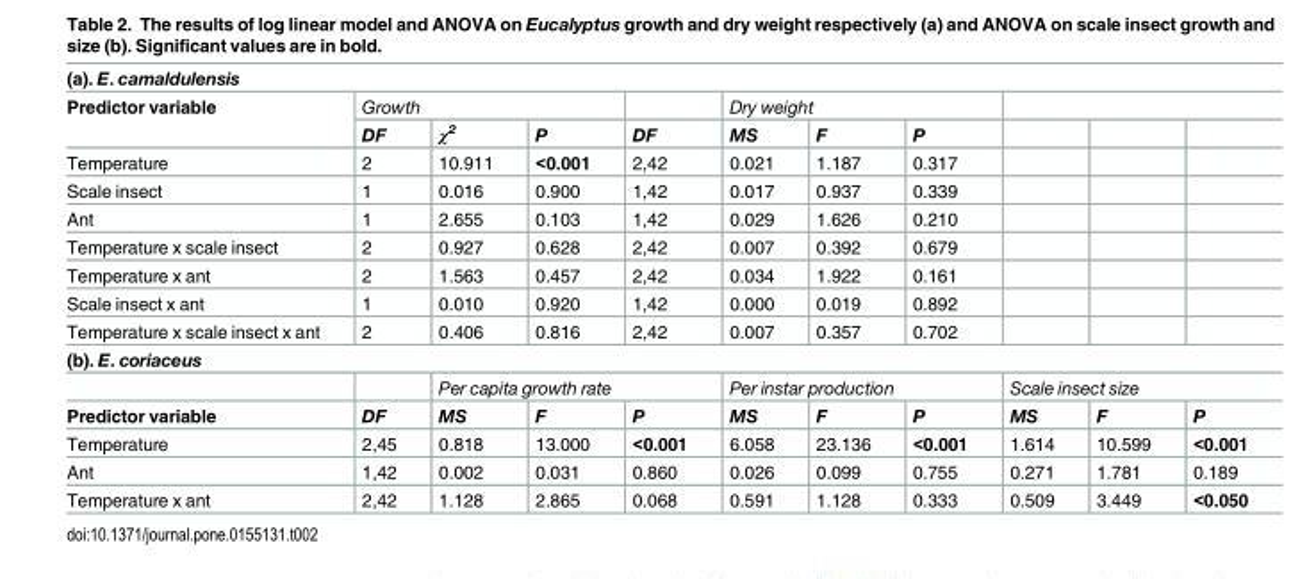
<table><tbody><tr><td colspan="11">(a). E. camaldulensis</td></tr><tr><td rowspan="2">Predictor variable</td><td colspan="3">Growth</td><td></td><td colspan="3">Dry weight</td><td colspan="3"></td></tr><tr><td>DF</td><td>χ<sup>2</sup></td><td>P</td><td>DF</td><td>MS</td><td>F</td><td>P</td><td></td><td></td><td></td></tr><tr><td>Temperature</td><td>2</td><td>10.911</td><td>&lt;0.001</td><td>2,42</td><td>0.021</td><td>1.187</td><td>0.317</td><td></td><td></td><td></td></tr><tr><td>Scale insect</td><td>1</td><td>0.016</td><td>0.900</td><td>1,42</td><td>0.017</td><td>0.937</td><td>0.339</td><td></td><td></td><td></td></tr><tr><td>Ant</td><td>1</td><td>2.655</td><td>0.103</td><td>1,42</td><td>0.029</td><td>1.626</td><td>0.210</td><td></td><td></td><td></td></tr><tr><td>Temperature x scale insect</td><td>2</td><td>0.927</td><td>0.628</td><td>2,42</td><td>0.007</td><td>0.392</td><td>0.679</td><td></td><td></td><td></td></tr><tr><td>Temperature x ant</td><td>2</td><td>1.563</td><td>0.457</td><td>2,42</td><td>0.034</td><td>1.922</td><td>0.161</td><td></td><td></td><td></td></tr><tr><td>Scale insect x ant</td><td>1</td><td>0.010</td><td>0.920</td><td>1,42</td><td>0.000</td><td>0.019</td><td>0.892</td><td></td><td></td><td></td></tr><tr><td>Temperature x scale insect x ant</td><td>2</td><td>0.406</td><td>0.816</td><td>2,42</td><td>0.007</td><td>0.357</td><td>0.702</td><td></td><td></td><td></td></tr><tr><td colspan="11">(b). E. coriaceus</td></tr><tr><td></td><td></td><td colspan="3">Per capita growth rate</td><td colspan="3">Per instar production</td><td colspan="3">Scale insect size</td></tr><tr><td>Predictor variable</td><td>DF</td><td>MS</td><td>F</td><td>P</td><td>MS</td><td>F</td><td>P</td><td>MS</td><td>F</td><td>P</td></tr><tr><td>Temperature</td><td>2,45</td><td>0.818</td><td>13.000</td><td>&lt;0.001</td><td>6.058</td><td>23.136</td><td>&lt;0.001</td><td>1.614</td><td>10.599</td><td>&lt;0.001</td></tr><tr><td>Ant</td><td>1,42</td><td>0.002</td><td>0.031</td><td>0.860</td><td>0.026</td><td>0.099</td><td>0.755</td><td>0.271</td><td>1.781</td><td>0.189</td></tr><tr><td>Temperature x ant</td><td>2,42</td><td>1.128</td><td>2.865</td><td>0.068</td><td>0.591</td><td>1.128</td><td>0.333</td><td>0.509</td><td>3.449</td><td>&lt;0.050</td></tr></tbody></table>